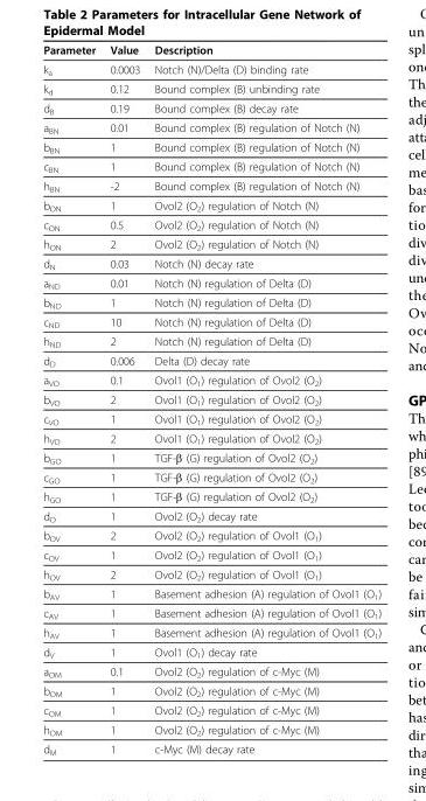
<table><thead><tr><td>Parameter</td><td>Value</td><td>Description</td></tr></thead><tbody><tr><td>k<sub>a</sub></td><td>0.0003</td><td>Notch (N)/Delta (D) binding rate</td></tr><tr><td>k<sub>d</sub></td><td>0.12</td><td>Bound complex (B) unbinding rate</td></tr><tr><td>d<sub>B</sub></td><td>0.19</td><td>Bound complex (B) decay rate</td></tr><tr><td>a<sub>BN</sub></td><td>0.01</td><td>Bound complex (B) regulation of Notch (N)</td></tr><tr><td>b<sub>BN</sub></td><td>1</td><td>Bound complex (B) regulation of Notch (N)</td></tr><tr><td>c<sub>BN</sub></td><td>1</td><td>Bound complex (B) regulation of Notch (N)</td></tr><tr><td>h<sub>BN</sub></td><td>-2</td><td>Bound complex (B) regulation of Notch (N)</td></tr><tr><td>b<sub>ON</sub></td><td>1</td><td>Ovol2 (O<sub>2</sub>) regulation of Notch (N)</td></tr><tr><td>c<sub>ON</sub></td><td>0.5</td><td>Ovol2 (O<sub>2</sub>) regulation of Notch (N)</td></tr><tr><td>h<sub>ON</sub></td><td>2</td><td>Ovol2 (O<sub>2</sub>) regulation of Notch (N)</td></tr><tr><td>d<sub>N</sub></td><td>0.03</td><td>Notch (N) decay rate</td></tr><tr><td>a<sub>ND</sub></td><td>0.01</td><td>Notch (N) regulation of Delta (D)</td></tr><tr><td>b<sub>ND</sub></td><td>1</td><td>Notch (N) regulation of Delta (D)</td></tr><tr><td>c<sub>ND</sub></td><td>10</td><td>Notch (N) regulation of Delta (D)</td></tr><tr><td>h<sub>ND</sub></td><td>2</td><td>Notch (N) regulation of Delta (D)</td></tr><tr><td>d<sub>D</sub></td><td>0.006</td><td>Delta (D) decay rate</td></tr><tr><td>a<sub>VO</sub></td><td>0.1</td><td>Ovol1 (O<sub>1</sub>) regulation of Ovol2 (O<sub>2</sub>)</td></tr><tr><td>b<sub>VO</sub></td><td>2</td><td>Ovol1 (O<sub>1</sub>) regulation of Ovol2 (O<sub>2</sub>)</td></tr><tr><td>c<sub>VO</sub></td><td>1</td><td>Ovol1 (O<sub>1</sub>) regulation of Ovol2 (O<sub>2</sub>)</td></tr><tr><td>h<sub>VO</sub></td><td>2</td><td>Ovol1 (O<sub>1</sub>) regulation of Ovol2 (O<sub>2</sub>)</td></tr><tr><td>b<sub>GO</sub></td><td>1</td><td>TGF-β (G) regulation of Ovol2 (O<sub>2</sub>)</td></tr><tr><td>c<sub>GO</sub></td><td>1</td><td>TGF-β (G) regulation of Ovol2 (O<sub>2</sub>)</td></tr><tr><td>h<sub>GO</sub></td><td>1</td><td>TGF-β (G) regulation of Ovol2 (O<sub>2</sub>)</td></tr><tr><td>d<sub>O</sub></td><td>1</td><td>Ovol2 (O<sub>2</sub>) decay rate</td></tr><tr><td>b<sub>OV</sub></td><td>2</td><td>Ovol2 (O<sub>2</sub>) regulation of Ovol1 (O<sub>1</sub>)</td></tr><tr><td>c<sub>OV</sub></td><td>1</td><td>Ovol2 (O<sub>2</sub>) regulation of Ovol1 (O<sub>1</sub>)</td></tr><tr><td>h<sub>OV</sub></td><td>2</td><td>Ovol2 (O<sub>2</sub>) regulation of Ovol1 (O<sub>1</sub>)</td></tr><tr><td>b<sub>AV</sub></td><td>1</td><td>Basement adhesion (A) regulation of Ovol1 (O<sub>1</sub>)</td></tr><tr><td>c<sub>AV</sub></td><td>1</td><td>Basement adhesion (A) regulation of Ovol1 (O<sub>1</sub>)</td></tr><tr><td>h<sub>AV</sub></td><td>1</td><td>Basement adhesion (A) regulation of Ovol1 (O<sub>1</sub>)</td></tr><tr><td>d<sub>V</sub></td><td>1</td><td>Ovol1 (O<sub>1</sub>) decay rate</td></tr><tr><td>a<sub>OM</sub></td><td>0.1</td><td>Ovol2 (O<sub>2</sub>) regulation of c-Myc (M)</td></tr><tr><td>b<sub>OM</sub></td><td>1</td><td>Ovol2 (O<sub>2</sub>) regulation of c-Myc (M)</td></tr><tr><td>c<sub>OM</sub></td><td>1</td><td>Ovol2 (O<sub>2</sub>) regulation of c-Myc (M)</td></tr><tr><td>h<sub>OM</sub></td><td>1</td><td>Ovol2 (O<sub>2</sub>) regulation of c-Myc (M)</td></tr><tr><td>d<sub>M</sub></td><td>1</td><td>c-Myc (M) decay rate</td></tr></tbody></table>